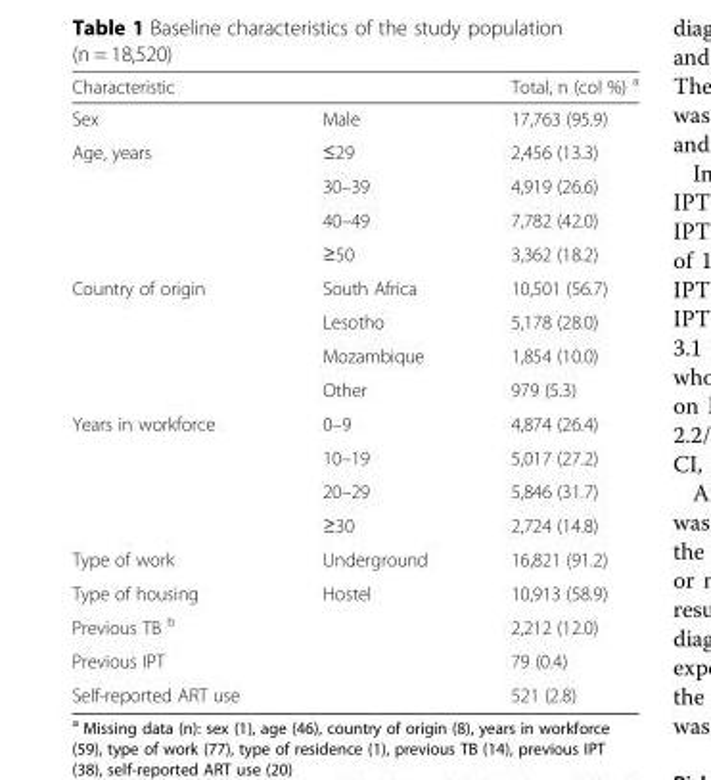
<table><thead><tr><td>Characteristic</td><td></td><td>Total, n (col %) <sup>a</sup></td></tr></thead><tbody><tr><td>Sex</td><td>Male</td><td>17,763 (95.9)</td></tr><tr><td rowspan="4">Age, years</td><td>≤29</td><td>2,456 (13.3)</td></tr><tr><td>30–39</td><td>4,919 (26.6)</td></tr><tr><td>40–49</td><td>7,782 (42.0)</td></tr><tr><td>≥50</td><td>3,362 (18.2)</td></tr><tr><td rowspan="4">Country of origin</td><td>South Africa</td><td>10,501 (56.7)</td></tr><tr><td>Lesotho</td><td>5,178 (28.0)</td></tr><tr><td>Mozambique</td><td>1,854 (10.0)</td></tr><tr><td>Other</td><td>979 (5.3)</td></tr><tr><td rowspan="4">Years in workforce</td><td>0–9</td><td>4,874 (26.4)</td></tr><tr><td>10–19</td><td>5,017 (27.2)</td></tr><tr><td>20–29</td><td>5,846 (31.7)</td></tr><tr><td>≥30</td><td>2,724 (14.8)</td></tr><tr><td>Type of work</td><td>Underground</td><td>16,821 (91.2)</td></tr><tr><td>Type of housing</td><td>Hostel</td><td>10,913 (58.9)</td></tr><tr><td>Previous TB <sup>b</sup></td><td></td><td>2,212 (12.0)</td></tr><tr><td>Previous IPT</td><td></td><td>79 (0.4)</td></tr><tr><td>Self-reported ART use</td><td></td><td>521 (2.8)</td></tr></tbody></table>